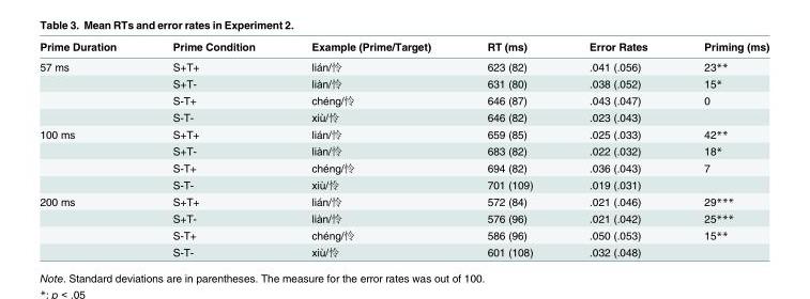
<table><thead><tr><td>Prime Duration</td><td>Prime Condition</td><td>Example (Prime/Target)</td><td>RT (ms)</td><td>Error Rates</td><td>Priming (ms)</td></tr></thead><tbody><tr><td rowspan="4">57 ms</td><td>S+T+</td><td>lián/怜</td><td>623 (82)</td><td>.041 (.056)</td><td>23**</td></tr><tr><td>S+T-</td><td>liàn/怜</td><td>631 (80)</td><td>.038 (.052)</td><td>15*</td></tr><tr><td>S-T+</td><td>chéng/怜</td><td>646 (87)</td><td>.043 (.047)</td><td>0</td></tr><tr><td>S-T-</td><td>xiù/怜</td><td>646 (82)</td><td>.023 (.043)</td><td></td></tr><tr><td rowspan="4">100 ms</td><td>S+T+</td><td>lián/怜</td><td>659 (85)</td><td>.025 (.033)</td><td>42**</td></tr><tr><td>S+T-</td><td>liàn/怜</td><td>683 (82)</td><td>.022 (.032)</td><td>18*</td></tr><tr><td>S-T+</td><td>chéng/怜</td><td>694 (82)</td><td>.036 (.043)</td><td>7</td></tr><tr><td>S-T-</td><td>xiù/怜</td><td>701 (109)</td><td>.019 (.031)</td><td></td></tr><tr><td rowspan="4">200 ms</td><td>S+T+</td><td>lián/怜</td><td>572 (84)</td><td>.021 (.046)</td><td>29***</td></tr><tr><td>S+T-</td><td>liàn/怜</td><td>576 (96)</td><td>.021 (.042)</td><td>25***</td></tr><tr><td>S-T+</td><td>chéng/怜</td><td>586 (96)</td><td>.050 (.053)</td><td>15**</td></tr><tr><td>S-T-</td><td>xiù/怜</td><td>601 (108)</td><td>.032 (.048)</td><td></td></tr></tbody></table>